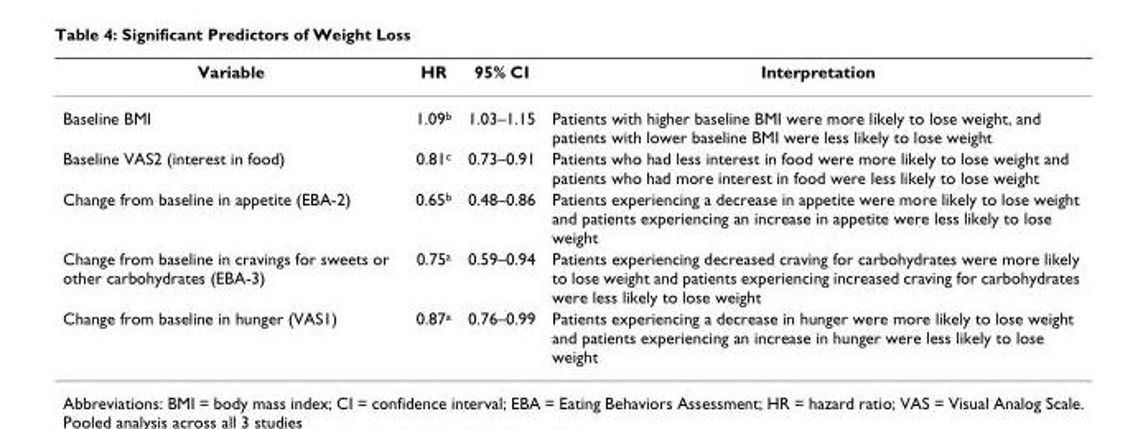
<table><thead><tr><td>Variable</td><td>HR</td><td>95% CI</td><td>Interpretation</td></tr></thead><tbody><tr><td>Baseline BMI</td><td>1.09<sup>b</sup></td><td>1.03–1.15</td><td>Patients with higher baseline BMI were more likely to lose weight, and patients with lower baseline BMI were less likely to lose weight</td></tr><tr><td>Baseline VAS2 (interest in food)</td><td>0.81<sup>c</sup></td><td>0.73–0.91</td><td>Patients who had less interest in food were more likely to lose weight and patients who had more interest in food were less likely to lose weight</td></tr><tr><td>Change from baseline in appetite (EBA-2)</td><td>0.65<sup>b</sup></td><td>0.48–0.86</td><td>Patients experiencing a decrease in appetite were more likely to lose weight and patients experiencing an increase in appetite were less likely to lose weight</td></tr><tr><td>Change from baseline in cravings for sweets or other carbohydrates (EBA-3)</td><td>0.75<sup>a</sup></td><td>0.59–0.94</td><td>Patients experiencing decreased craving for carbohydrates were more likely to lose weight and patients experiencing increased craving for carbohydrates were less likely to lose weight</td></tr><tr><td>Change from baseline in hunger (VAS1)</td><td>0.87<sup>a</sup></td><td>0.76–0.99</td><td>Patients experiencing a decrease in hunger were more likely to lose weight and patients experiencing an increase in hunger were less likely to lose weight</td></tr></tbody></table>